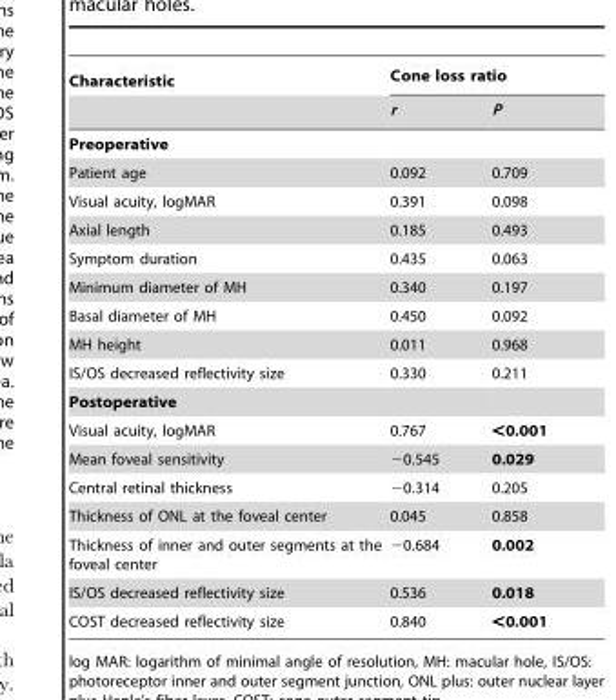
<table><thead><tr><td rowspan="2">Characteristic</td><td colspan="2">Cone loss ratio</td></tr><tr><td>r</td><td>P</td></tr></thead><tbody><tr><td colspan="3">Preoperative</td></tr><tr><td>Patient age</td><td>0.092</td><td>0.709</td></tr><tr><td>Visual acuity, logMAR</td><td>0.391</td><td>0.098</td></tr><tr><td>Axial length</td><td>0.185</td><td>0.493</td></tr><tr><td>Symptom duration</td><td>0.435</td><td>0.063</td></tr><tr><td>Minimum diameter of MH</td><td>0.340</td><td>0.197</td></tr><tr><td>Basal diameter of MH</td><td>0.450</td><td>0.092</td></tr><tr><td>MH height</td><td>0.011</td><td>0.968</td></tr><tr><td>IS/OS decreased reflectivity size</td><td>0.330</td><td>0.211</td></tr><tr><td colspan="3">Postoperative</td></tr><tr><td>Visual acuity, logMAR</td><td>0.767</td><td>&lt;0.001</td></tr><tr><td>Mean foveal sensitivity</td><td>−0.545</td><td>0.029</td></tr><tr><td>Central retinal thickness</td><td>−0.314</td><td>0.205</td></tr><tr><td>Thickness of ONL at the foveal center</td><td>0.045</td><td>0.858</td></tr><tr><td>Thickness of inner and outer segments at the foveal center</td><td>−0.684</td><td>0.002</td></tr><tr><td>IS/OS decreased reflectivity size</td><td>0.536</td><td>0.018</td></tr><tr><td>COST decreased reflectivity size</td><td>0.840</td><td>&lt;0.001</td></tr></tbody></table>